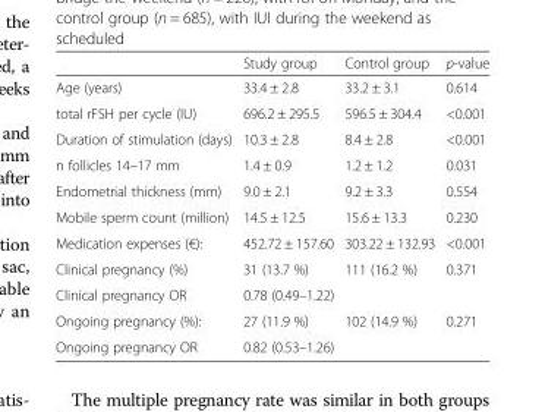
<table><thead><tr><td></td><td>Study group</td><td>Control group</td><td>p-value</td></tr></thead><tbody><tr><td>Age (years)</td><td>33.4 ± 2.8</td><td>33.2 ± 3.1</td><td>0.614</td></tr><tr><td>total rFSH per cycle (IU)</td><td>696.2 ± 295.5</td><td>596.5 ± 304.4</td><td>&lt;0.001</td></tr><tr><td>Duration of stimulation (days)</td><td>10.3 ± 2.8</td><td>8.4 ± 2.8</td><td>&lt;0.001</td></tr><tr><td>n follicles 14–17 mm</td><td>1.4 ± 0.9</td><td>1.2 ± 1.2</td><td>0.031</td></tr><tr><td>Endometrial thickness (mm)</td><td>9.0 ± 2.1</td><td>9.2 ± 3.3</td><td>0.554</td></tr><tr><td>Mobile sperm count (million)</td><td>14.5 ± 12.5</td><td>15.6 ± 13.3</td><td>0.230</td></tr><tr><td>Medication expenses (€):</td><td>452.72 ± 157.60</td><td>303.22 ± 132.93</td><td>&lt;0.001</td></tr><tr><td>Clinical pregnancy (%)</td><td>31 (13.7 %)</td><td>111 (16.2 %)</td><td>0.371</td></tr><tr><td>Clinical pregnancy OR</td><td colspan="3">0.78 (0.49–1.22)</td></tr><tr><td>Ongoing pregnancy (%):</td><td>27 (11.9 %)</td><td>102 (14.9 %)</td><td>0.271</td></tr><tr><td>Ongoing pregnancy OR</td><td colspan="3">0.82 (0.53–1.26)</td></tr></tbody></table>